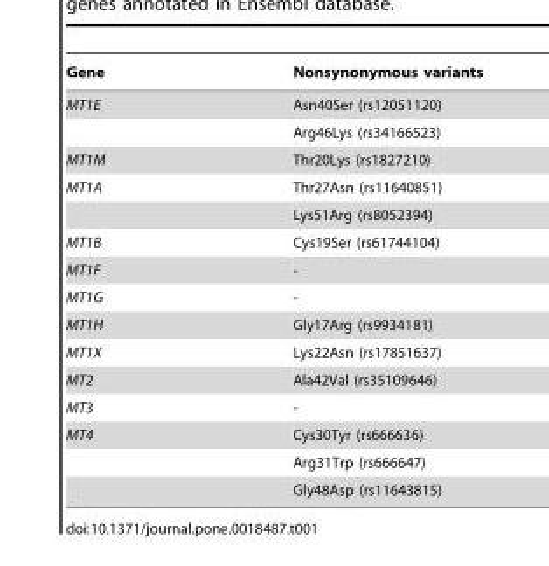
<table><thead><tr><td>Gene</td><td>Nonsynonymous variants</td></tr></thead><tbody><tr><td rowspan="2">MT1E</td><td>Asn40Ser (rs12051120)</td></tr><tr><td>Arg46Lys (rs34166523)</td></tr><tr><td>MT1M</td><td>Thr20Lys (rs1827210)</td></tr><tr><td rowspan="2">MT1A</td><td>Thr27Asn (rs11640851)</td></tr><tr><td>Lys51Arg (rs8052394)</td></tr><tr><td>MT1B</td><td>Cys19Ser (rs61744104)</td></tr><tr><td>MT1F</td><td>-</td></tr><tr><td>MT1G</td><td>-</td></tr><tr><td>MT1H</td><td>Gly17Arg (rs9934181)</td></tr><tr><td>MT1X</td><td>Lys22Asn (rs17851637)</td></tr><tr><td>MT2</td><td>Ala42Val (rs35109646)</td></tr><tr><td>MT3</td><td>-</td></tr><tr><td rowspan="3">MT4</td><td>Cys30Tyr (rs666636)</td></tr><tr><td>Arg31Trp (rs666647)</td></tr><tr><td>Gly48Asp (rs11643815)</td></tr></tbody></table>